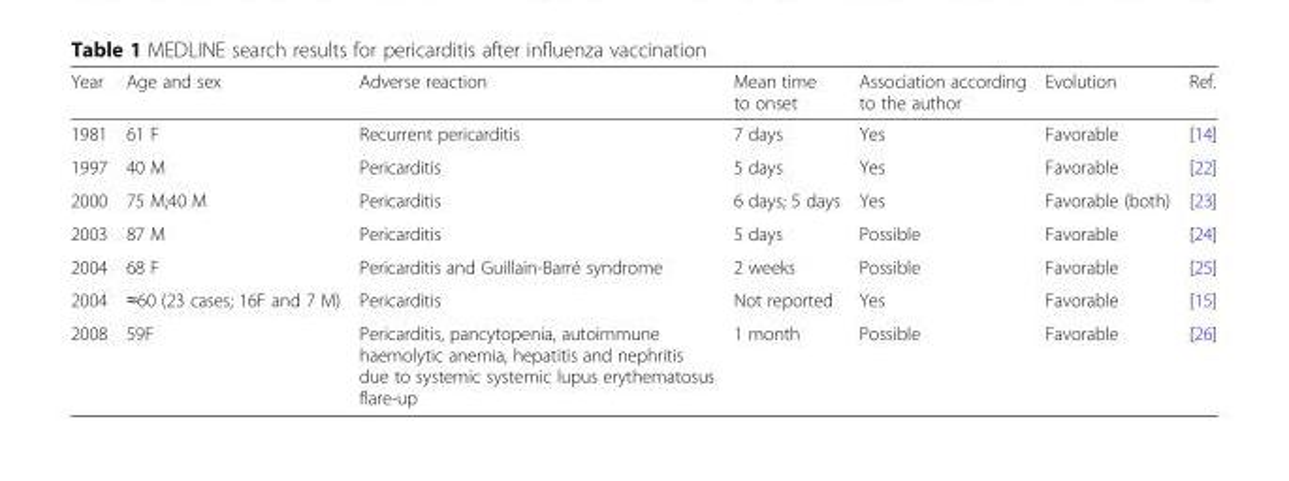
<table><thead><tr><td>Year</td><td>Age and sex</td><td>Adverse reaction</td><td>Mean time to onset</td><td>Association according to the author</td><td>Evolution</td><td>Ref.</td></tr></thead><tbody><tr><td>1981</td><td>61 F</td><td>Recurrent pericarditis</td><td>7 days</td><td>Yes</td><td>Favorable</td><td>[14]</td></tr><tr><td>1997</td><td>40 M</td><td>Pericarditis</td><td>5 days</td><td>Yes</td><td>Favorable</td><td>[22]</td></tr><tr><td>2000</td><td>75 M;40 M</td><td>Pericarditis</td><td>6 days; 5 days</td><td>Yes</td><td>Favorable (both)</td><td>[23]</td></tr><tr><td>2003</td><td>87 M</td><td>Pericarditis</td><td>5 days</td><td>Possible</td><td>Favorable</td><td>[24]</td></tr><tr><td>2004</td><td>68 F</td><td>Pericarditis and Guillain-Barré syndrome</td><td>2 weeks</td><td>Possible</td><td>Favorable</td><td>[25]</td></tr><tr><td>2004</td><td>≈60 (23 cases; 16F and 7 M)</td><td>Pericarditis</td><td>Not reported</td><td>Yes</td><td>Favorable</td><td>[15]</td></tr><tr><td>2008</td><td>59F</td><td>Pericarditis, pancytopenia, autoimmune haemolytic anemia, hepatitis and nephritis due to systemic systemic lupus erythematosus flare-up</td><td>1 month</td><td>Possible</td><td>Favorable</td><td>[26]</td></tr></tbody></table>